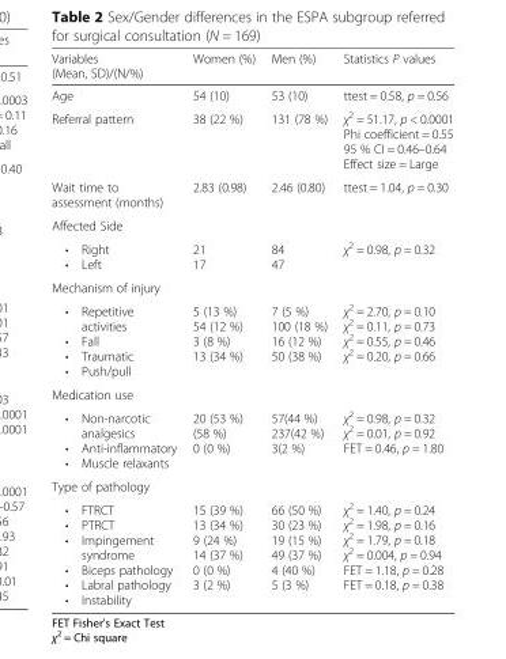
<table><thead><tr><td>Variables (Mean, SD)/(N/%)</td><td>Women (%)</td><td>Men (%)</td><td>Statistics P values</td></tr></thead><tbody><tr><td>Age</td><td>54 (10)</td><td>53 (10)</td><td>ttest = 0.58, p = 0.56</td></tr><tr><td>Referral pattern</td><td>38 (22 %)</td><td>131 (78 %)</td><td>χ<sup>2</sup> = 51.17, p &lt; 0.0001 Phi coefficient = 0.55 95 % CI = 0.46–0.64 Effect size = Large</td></tr><tr><td>Wait time to assessment (months)</td><td>2.83 (0.98)</td><td>2.46 (0.80)</td><td>ttest = 1.04, p = 0.30</td></tr><tr><td colspan="4">Affected Side</td></tr><tr><td>• Right • Left</td><td>21 17</td><td>84 47</td><td>χ<sup>2</sup> = 0.98, p = 0.32</td></tr><tr><td colspan="4">Mechanism of injury</td></tr><tr><td>• Repetitive activities • Fall • Traumatic • Push/pull</td><td>5 (13 %) 54 (12 %) 3 (8 %) 13 (34 %)</td><td>7 (5 %) 100 (18 %) 16 (12 %) 50 (38 %)</td><td>χ<sup>2</sup> = 2.70, p = 0.10 χ<sup>2</sup> = 0.11, p = 0.73 χ<sup>2</sup> = 0.55, p = 0.46 χ<sup>2</sup> = 0.20, p = 0.66</td></tr><tr><td colspan="4">Medication use</td></tr><tr><td>• Non-narcotic analgesics • Anti-inflammatory • Muscle relaxants</td><td>20 (53 %) (58 %) 0 (0 %)</td><td>57(44 %) 237(42 %) 3(2 %)</td><td>χ<sup>2</sup> = 0.98, p = 0.32 χ<sup>2</sup> = 0.01, p = 0.92 FET = 0.46, p = 1.80</td></tr><tr><td colspan="4">Type of pathology</td></tr><tr><td>• FTRCT • PTRCT • Impingement syndrome • Biceps pathology • Labral pathology • Instability</td><td>15 (39 %) 13 (34 %) 9 (24 %) 14 (37 %) 0 (0 %) 3 (2 %)</td><td>66 (50 %) 30 (23 %) 19 (15 %) 49 (37 %) 4 (40 %) 5 (3 %)</td><td>χ<sup>2</sup> = 1.40, p = 0.24 χ<sup>2</sup> = 1.98, p = 0.16 χ<sup>2</sup> = 1.79, p = 0.18 χ<sup>2</sup> = 0.004, p = 0.94 FET = 1.18, p = 0.28 FET = 0.18, p = 0.38</td></tr></tbody></table>